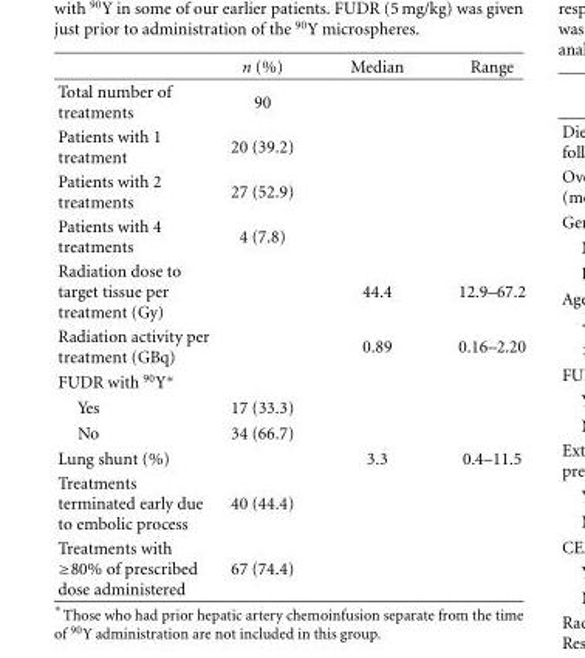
<table><thead><tr><td></td><td>n (%)</td><td>Median</td><td>Range</td></tr></thead><tbody><tr><td>Total number of treatments</td><td>90</td><td></td><td></td></tr><tr><td>Patients with 1 treatment</td><td>20 (39.2)</td><td></td><td></td></tr><tr><td>Patients with 2 treatments</td><td>27 (52.9)</td><td></td><td></td></tr><tr><td>Patients with 4 treatments</td><td>4 (7.8)</td><td></td><td></td></tr><tr><td>Radiation dose to target tissue per treatment (Gy)</td><td></td><td>44.4</td><td>12.9–67.2</td></tr><tr><td>Radiation activity per treatment (GBq)</td><td></td><td>0.89</td><td>0.16–2.20</td></tr><tr><td colspan="4">FUDR with 90Y∗</td></tr><tr><td>Yes</td><td>17 (33.3)</td><td></td><td></td></tr><tr><td>No</td><td>34 (66.7)</td><td></td><td></td></tr><tr><td>Lung shunt (%)</td><td></td><td>3.3</td><td>0.4–11.5</td></tr><tr><td>Treatments terminated early due to embolic process</td><td>40 (44.4)</td><td></td><td></td></tr><tr><td>Treatments with ≥80% of prescribed dose administered</td><td>67 (74.4)</td><td></td><td></td></tr></tbody></table>